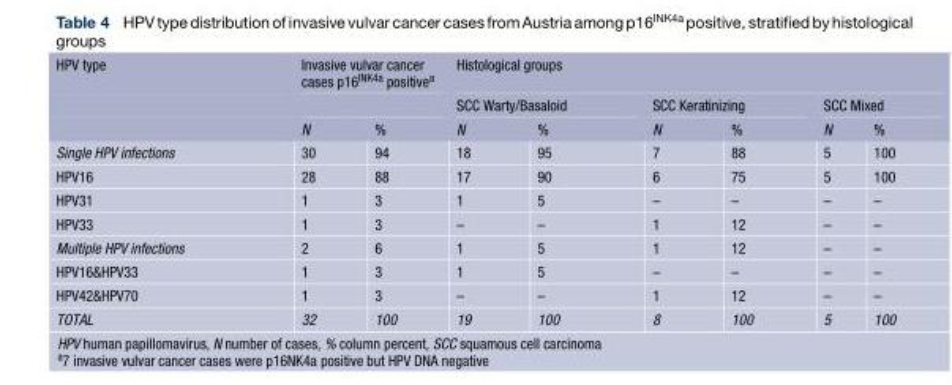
<table><thead><tr><td rowspan="3">HPV type</td><td colspan="2">Invasive vulvar cancer cases p16<sup>INK4a</sup> positive<sup>a</sup></td><td colspan="6">Histological groups</td></tr><tr><td rowspan="2">N</td><td rowspan="2">%</td><td colspan="2">SCC Warty/Basaloid</td><td colspan="2">SCC Keratinizing</td><td colspan="2">SCC Mixed</td></tr><tr><td>N</td><td>%</td><td>N</td><td>%</td><td>N</td><td>%</td></tr></thead><tbody><tr><td>Single HPV infections</td><td>30</td><td>94</td><td>18</td><td>95</td><td>7</td><td>88</td><td>5</td><td>100</td></tr><tr><td>HPV16</td><td>28</td><td>88</td><td>17</td><td>90</td><td>6</td><td>75</td><td>5</td><td>100</td></tr><tr><td>HPV31</td><td>1</td><td>3</td><td>1</td><td>5</td><td>–</td><td>–</td><td>–</td><td>–</td></tr><tr><td>HPV33</td><td>1</td><td>3</td><td>–</td><td>–</td><td>1</td><td>12</td><td>–</td><td>–</td></tr><tr><td>Multiple HPV infections</td><td>2</td><td>6</td><td>1</td><td>5</td><td>1</td><td>12</td><td>–</td><td>–</td></tr><tr><td>HPV16&amp;HPV33</td><td>1</td><td>3</td><td>1</td><td>5</td><td>–</td><td>–</td><td>–</td><td>–</td></tr><tr><td>HPV42&amp;HPV70</td><td>1</td><td>3</td><td>–</td><td>–</td><td>1</td><td>12</td><td>–</td><td>–</td></tr><tr><td>TOTAL</td><td>32</td><td>100</td><td>19</td><td>100</td><td>8</td><td>100</td><td>5</td><td>100</td></tr></tbody></table>